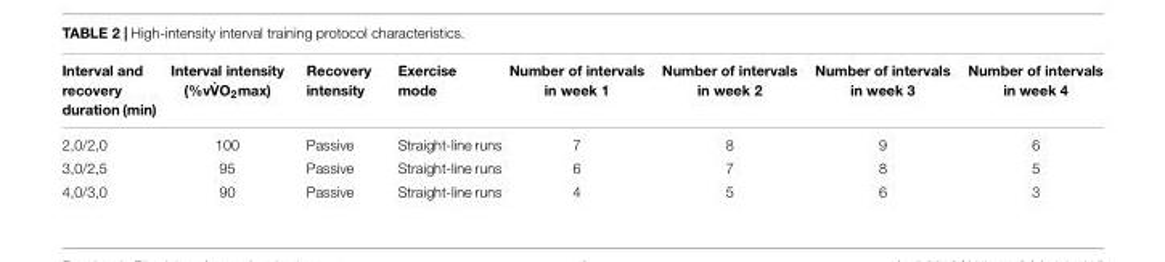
<table><thead><tr><td>Interval and recovery duration (min)</td><td>Interval intensity (%v ˙VO2max)</td><td>Recovery intensity</td><td>Exercise mode</td><td>Number of intervals in week 1</td><td>Number of intervals in week 2</td><td>Number of intervals in week 3</td><td>Number of intervals in week 4</td></tr></thead><tbody><tr><td>2,0/2,0</td><td>100</td><td>Passive</td><td>Straight-line runs</td><td>7</td><td>8</td><td>9</td><td>6</td></tr><tr><td>3,0/2,5</td><td>95</td><td>Passive</td><td>Straight-line runs</td><td>6</td><td>7</td><td>8</td><td>5</td></tr><tr><td>4,0/3,0</td><td>90</td><td>Passive</td><td>Straight-line runs</td><td>4</td><td>5</td><td>6</td><td>3</td></tr></tbody></table>